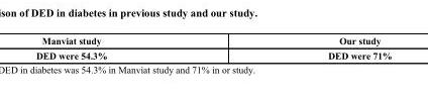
<table><thead><tr><td>Manviat study</td><td>Our study</td></tr></thead><tbody><tr><td>DED were 54.3%</td><td>DED were 71%</td></tr></tbody></table>